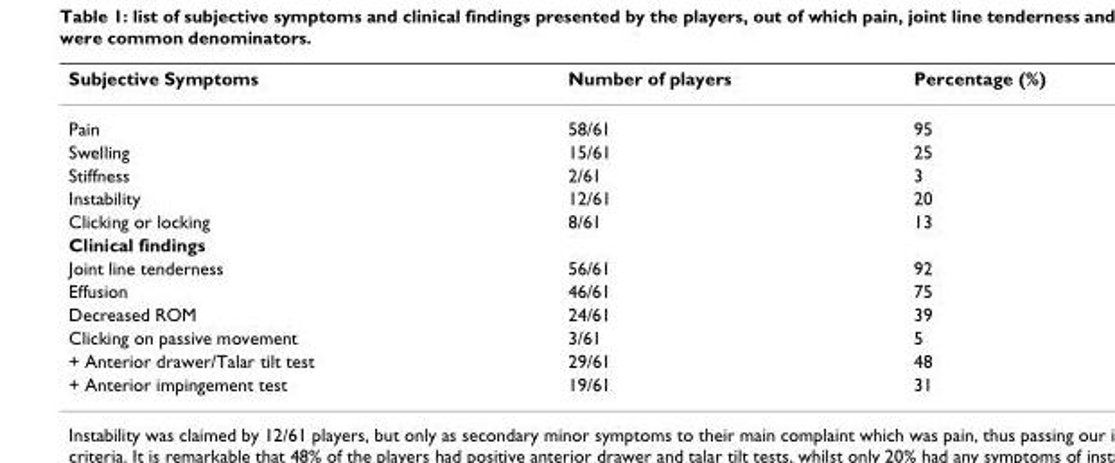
<table><thead><tr><td>Subjective Symptoms</td><td>Number of players</td><td>Percentage (%)</td></tr></thead><tbody><tr><td>Pain</td><td>58/61</td><td>95</td></tr><tr><td>Swelling</td><td>15/61</td><td>25</td></tr><tr><td>Stiffness</td><td>2/61</td><td>3</td></tr><tr><td>Instability</td><td>12/61</td><td>20</td></tr><tr><td>Clicking or locking</td><td>8/61</td><td>13</td></tr><tr><td colspan="3">Clinical findings</td></tr><tr><td>Joint line tenderness</td><td>56/61</td><td>92</td></tr><tr><td>Effusion</td><td>46/61</td><td>75</td></tr><tr><td>Decreased ROM</td><td>24/61</td><td>39</td></tr><tr><td>Clicking on passive movement</td><td>3/61</td><td>5</td></tr><tr><td>+ Anterior drawer/Talar tilt test</td><td>29/61</td><td>48</td></tr><tr><td>+ Anterior impingement test</td><td>19/61</td><td>31</td></tr></tbody></table>